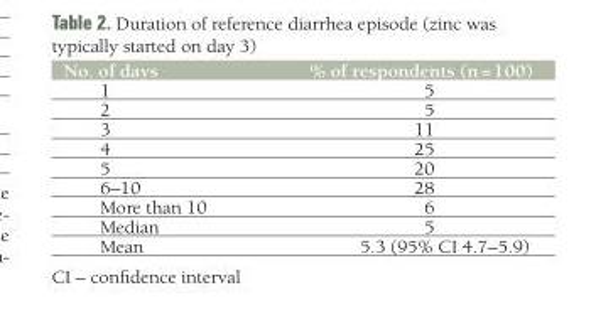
<table><thead><tr><td>No. of days</td><td>% of respondents (n = 100)</td></tr></thead><tbody><tr><td>1</td><td>5</td></tr><tr><td>2</td><td>5</td></tr><tr><td>3</td><td>11</td></tr><tr><td>4</td><td>25</td></tr><tr><td>5</td><td>20</td></tr><tr><td>6–10</td><td>28</td></tr><tr><td>More than 10</td><td>6</td></tr><tr><td>Median</td><td>5</td></tr><tr><td>Mean</td><td>5.3 (95% CI 4.7–5.9)</td></tr></tbody></table>